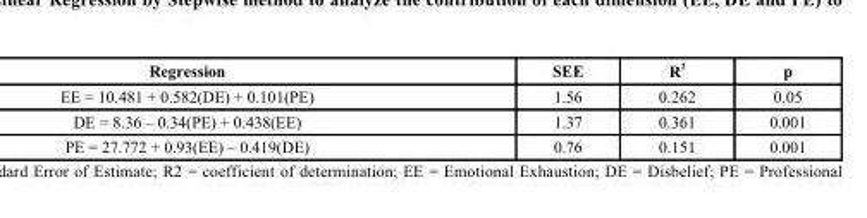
<table><thead><tr><td>Regression</td><td>SEE</td><td>R <sup>2</sup></td><td>p</td></tr></thead><tbody><tr><td>EE = 10.481 + 0.582(DE) + 0.101(PE)</td><td>1.56</td><td>0.262</td><td>0.05</td></tr><tr><td>DE = 8.36 – 0.34(PE) + 0.438(EE)</td><td>1.37</td><td>0.361</td><td>0.001</td></tr><tr><td>PE = 27.772 + 0.93(EE) – 0.419(DE)</td><td>0.76</td><td>0.151</td><td>0.001</td></tr></tbody></table>